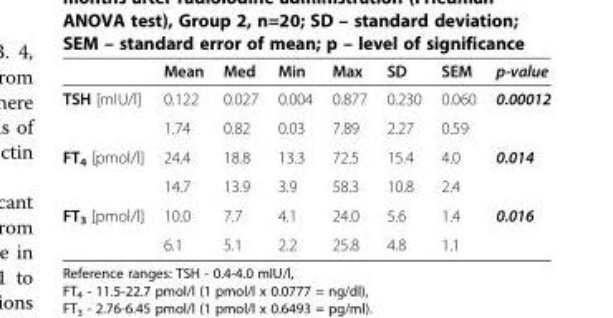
<table><thead><tr><td></td><td>Mean</td><td>Med</td><td>Min</td><td>Max</td><td>SD</td><td>SEM</td><td>p-value</td></tr></thead><tbody><tr><td rowspan="2">TSH [mIU/l]</td><td>0.122</td><td>0.027</td><td>0.004</td><td>0.877</td><td>0.230</td><td>0.060</td><td rowspan="2">0.00012</td></tr><tr><td>1.74</td><td>0.82</td><td>0.03</td><td>7.89</td><td>2.27</td><td>0.59</td></tr><tr><td rowspan="2">FT<sub>4</sub> [pmol/l]</td><td>24.4</td><td>18.8</td><td>13.3</td><td>72.5</td><td>15.4</td><td>4.0</td><td rowspan="2">0.014</td></tr><tr><td>14.7</td><td>13.9</td><td>3.9</td><td>58.3</td><td>10.8</td><td>2.4</td></tr><tr><td rowspan="2">FT<sub>3</sub> [pmol/l]</td><td>10.0</td><td>7.7</td><td>4.1</td><td>24.0</td><td>5.6</td><td>1.4</td><td>0.016</td></tr><tr><td>6.1</td><td>5.1</td><td>2.2</td><td>25.8</td><td>4.8</td><td>1.1</td><td></td></tr></tbody></table>